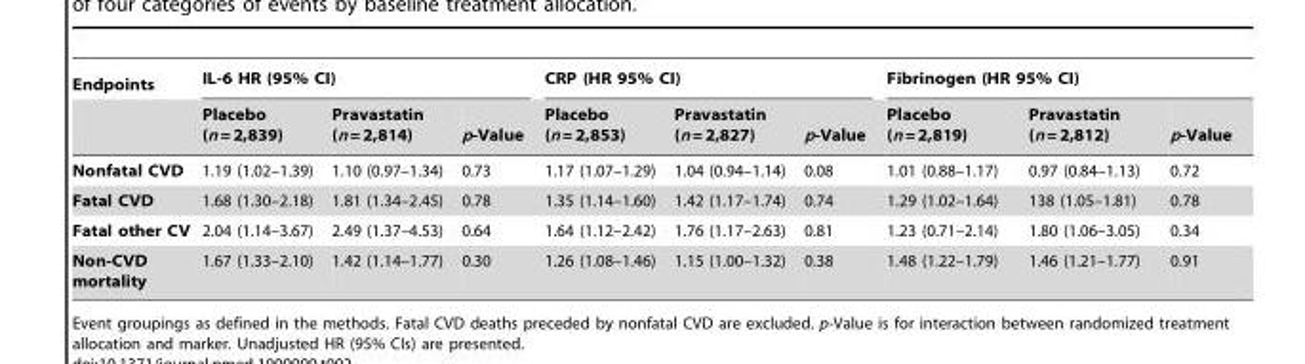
<table><thead><tr><td rowspan="2">Endpoints</td><td colspan="3">IL-6 HR (95% CI)</td><td colspan="3">CRP (HR 95% CI)</td><td colspan="3">Fibrinogen (HR 95% CI)</td></tr><tr><td>Placebo (n = 2,839)</td><td>Pravastatin (n = 2,814)</td><td>p-Value</td><td>Placebo (n = 2,853)</td><td>Pravastatin (n = 2,827)</td><td>p-Value</td><td>Placebo (n = 2,819)</td><td>Pravastatin (n = 2,812)</td><td>p-Value</td></tr></thead><tbody><tr><td>Nonfatal CVD</td><td>1.19 (1.02–1.39)</td><td>1.10 (0.97–1.34)</td><td>0.73</td><td>1.17 (1.07–1.29)</td><td>1.04 (0.94–1.14)</td><td>0.08</td><td>1.01 (0.88–1.17)</td><td>0.97 (0.84–1.13)</td><td>0.72</td></tr><tr><td>Fatal CVD</td><td>1.68 (1.30–2.18)</td><td>1.81 (1.34–2.45)</td><td>0.78</td><td>1.35 (1.14–1.60)</td><td>1.42 (1.17–1.74)</td><td>0.74</td><td>1.29 (1.02–1.64)</td><td>138 (1.05–1.81)</td><td>0.78</td></tr><tr><td>Fatal other CV</td><td>2.04 (1.14–3.67)</td><td>2.49 (1.37–4.53)</td><td>0.64</td><td>1.64 (1.12–2.42)</td><td>1.76 (1.17–2.63)</td><td>0.81</td><td>1.23 (0.71–2.14)</td><td>1.80 (1.06–3.05)</td><td>0.34</td></tr><tr><td>Non-CVD mortality</td><td>1.67 (1.33–2.10)</td><td>1.42 (1.14–1.77)</td><td>0.30</td><td>1.26 (1.08–1.46)</td><td>1.15 (1.00–1.32)</td><td>0.38</td><td>1.48 (1.22–1.79)</td><td>1.46 (1.21–1.77)</td><td>0.91</td></tr></tbody></table>